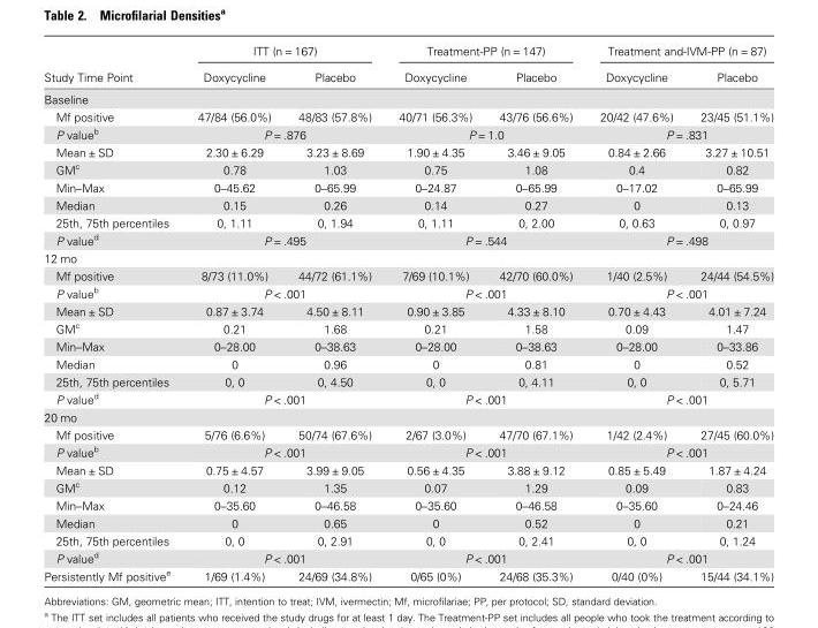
<table><thead><tr><td rowspan="2">Study Time Point</td><td colspan="2">ITT (n = 167)</td><td colspan="2">Treatment-PP (n = 147)</td><td colspan="2">Treatment and-IVM-PP (n = 87)</td></tr><tr><td>Doxycycline</td><td>Placebo</td><td>Doxycycline</td><td>Placebo</td><td>Doxycycline</td><td>Placebo</td></tr></thead><tbody><tr><td colspan="7">Baseline</td></tr><tr><td>Mf positive</td><td>47/84 (56.0%)</td><td>48/83 (57.8%)</td><td>40/71 (56.3%)</td><td>43/76 (56.6%)</td><td>20/42 (47.6%)</td><td>23/45 (51.1%)</td></tr><tr><td>P value<sup>b</sup></td><td colspan="2">P = .876</td><td colspan="2">P = 1.0</td><td colspan="2">P = .831</td></tr><tr><td>Mean ± SD</td><td>2.30 ± 6.29</td><td>3.23 ± 8.69</td><td>1.90 ± 4.35</td><td>3.46 ± 9.05</td><td>0.84 ± 2.66</td><td>3.27 ± 10.51</td></tr><tr><td>GM<sup>c</sup></td><td>0.78</td><td>1.03</td><td>0.75</td><td>1.08</td><td>0.4</td><td>0.82</td></tr><tr><td>Min–Max</td><td>0–45.62</td><td>0–65.99</td><td>0–24.87</td><td>0–65.99</td><td>0–17.02</td><td>0–65.99</td></tr><tr><td>Median</td><td>0.15</td><td>0.26</td><td>0.14</td><td>0.27</td><td>0</td><td>0.13</td></tr><tr><td>25th, 75th percentiles</td><td>0, 1.11</td><td>0, 1.94</td><td>0, 1.11</td><td>0, 2.00</td><td>0, 0.63</td><td>0, 0.97</td></tr><tr><td>P value<sup>d</sup></td><td colspan="2">P = .495</td><td colspan="2">P = .544</td><td colspan="2">P = .498</td></tr><tr><td colspan="7">12 mo</td></tr><tr><td>Mf positive</td><td>8/73 (11.0%)</td><td>44/72 (61.1%)</td><td>7/69 (10.1%)</td><td>42/70 (60.0%)</td><td>1/40 (2.5%)</td><td>24/44 (54.5%)</td></tr><tr><td>P value<sup>b</sup></td><td colspan="2">P &lt; .001</td><td colspan="2">P &lt; .001</td><td colspan="2">P &lt; .001</td></tr><tr><td>Mean ± SD</td><td>0.87 ± 3.74</td><td>4.50 ± 8.11</td><td>0.90 ± 3.85</td><td>4.33 ± 8.10</td><td>0.70 ± 4.43</td><td>4.01 ± 7.24</td></tr><tr><td>GM<sup>c</sup></td><td>0.21</td><td>1.68</td><td>0.21</td><td>1.58</td><td>0.09</td><td>1.47</td></tr><tr><td>Min–Max</td><td>0–28.00</td><td>0–38.63</td><td>0–28.00</td><td>0–38.63</td><td>0–28.00</td><td>0–33.86</td></tr><tr><td>Median</td><td>0</td><td>0.96</td><td>0</td><td>0.81</td><td>0</td><td>0.52</td></tr><tr><td>25th, 75th percentiles</td><td>0, 0</td><td>0, 4.50</td><td>0, 0</td><td>0, 4.11</td><td>0, 0</td><td>0, 5.71</td></tr><tr><td>P value<sup>d</sup></td><td colspan="2">P &lt; .001</td><td colspan="2">P &lt; .001</td><td colspan="2">P &lt; .001</td></tr><tr><td colspan="7">20 mo</td></tr><tr><td>Mf positive</td><td>5/76 (6.6%)</td><td>50/74 (67.6%)</td><td>2/67 (3.0%)</td><td>47/70 (67.1%)</td><td>1/42 (2.4%)</td><td>27/45 (60.0%)</td></tr><tr><td>P value<sup>b</sup></td><td colspan="2">P &lt; .001</td><td colspan="2">P &lt; .001</td><td colspan="2">P &lt; .001</td></tr><tr><td>Mean ± SD</td><td>0.75 ± 4.57</td><td>3.99 ± 9.05</td><td>0.56 ± 4.35</td><td>3.88 ± 9.12</td><td>0.85 ± 5.49</td><td>1.87 ± 4.24</td></tr><tr><td>GM<sup>c</sup></td><td>0.12</td><td>1.35</td><td>0.07</td><td>1.29</td><td>0.09</td><td>0.83</td></tr><tr><td>Min–Max</td><td>0–35.60</td><td>0–46.58</td><td>0–35.60</td><td>0–46.58</td><td>0–35.60</td><td>0–24.46</td></tr><tr><td>Median</td><td>0</td><td>0.65</td><td>0</td><td>0.52</td><td>0</td><td>0.21</td></tr><tr><td>25th, 75th percentiles</td><td>0, 0</td><td>0, 2.91</td><td>0, 0</td><td>0, 2.41</td><td>0, 0</td><td>0, 1.24</td></tr><tr><td>P value<sup>d</sup></td><td colspan="2">P &lt; .001</td><td colspan="2">P &lt; .001</td><td colspan="2">P &lt; .001</td></tr><tr><td>Persistently Mf positive<sup>e</sup></td><td>1/69 (1.4%)</td><td>24/69 (34.8%)</td><td>0/65 (0%)</td><td>24/68 (35.3%)</td><td>0/40 (0%)</td><td>15/44 (34.1%)</td></tr></tbody></table>